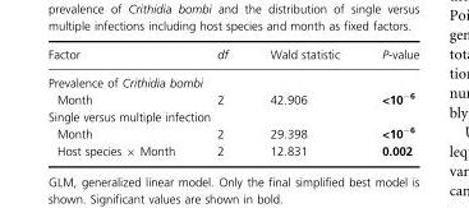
<table><thead><tr><td>Factor</td><td>df</td><td>Wald statistic</td><td>P-value</td></tr></thead><tbody><tr><td colspan="4">Prevalence of Crithidia bombi</td></tr><tr><td>Month</td><td>2</td><td>42.906</td><td>&lt;10<sup>−6</sup></td></tr><tr><td colspan="4">Single versus multiple infection</td></tr><tr><td>Month</td><td>2</td><td>29.398</td><td>&lt;10<sup>−6</sup></td></tr><tr><td>Host species × Month</td><td>2</td><td>12.831</td><td>0.002</td></tr></tbody></table>